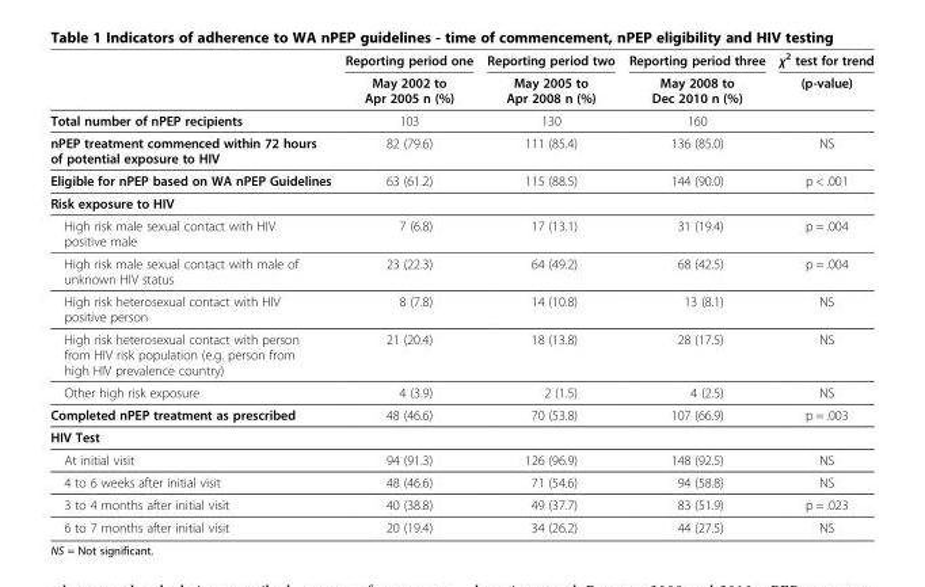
<table><thead><tr><td rowspan="2"></td><td rowspan="2">Reporting period one May 2002 to Apr 2005 n (%)</td><td rowspan="2">Reporting period two May 2005 to Apr 2008 n (%)</td><td rowspan="2">Reporting period three May 2008 to Dec 2010 n (%)</td><td rowspan="2">χ<sup>2</sup> test for trend (p-value)</td></tr><tr></tr></thead><tbody><tr><td>Total number of nPEP recipients</td><td>103</td><td>130</td><td>160</td><td></td></tr><tr><td>nPEP treatment commenced within 72 hours of potential exposure to HIV</td><td>82 (79.6)</td><td>111 (85.4)</td><td>136 (85.0)</td><td>NS</td></tr><tr><td>Eligible for nPEP based on WA nPEP Guidelines</td><td>63 (61.2)</td><td>115 (88.5)</td><td>144 (90.0)</td><td>p &lt; .001</td></tr><tr><td colspan="5">Risk exposure to HIV</td></tr><tr><td>High risk male sexual contact with HIV positive male</td><td>7 (6.8)</td><td>17 (13.1)</td><td>31 (19.4)</td><td>p = .004</td></tr><tr><td>High risk male sexual contact with male of unknown HIV status</td><td>23 (22.3)</td><td>64 (49.2)</td><td>68 (42.5)</td><td>p = .004</td></tr><tr><td>High risk heterosexual contact with HIV positive person</td><td>8 (7.8)</td><td>14 (10.8)</td><td>13 (8.1)</td><td>NS</td></tr><tr><td>High risk heterosexual contact with person from HIV risk population (e.g. person from high HIV prevalence country)</td><td>21 (20.4)</td><td>18 (13.8)</td><td>28 (17.5)</td><td>NS</td></tr><tr><td>Other high risk exposure</td><td>4 (3.9)</td><td>2 (1.5)</td><td>4 (2.5)</td><td>NS</td></tr><tr><td>Completed nPEP treatment as prescribed</td><td>48 (46.6)</td><td>70 (53.8)</td><td>107 (66.9)</td><td>p = .003</td></tr><tr><td colspan="5">HIV Test</td></tr><tr><td>At initial visit</td><td>94 (91.3)</td><td>126 (96.9)</td><td>148 (92.5)</td><td>NS</td></tr><tr><td>4 to 6 weeks after initial visit</td><td>48 (46.6)</td><td>71 (54.6)</td><td>94 (58.8)</td><td>NS</td></tr><tr><td>3 to 4 months after initial visit</td><td>40 (38.8)</td><td>49 (37.7)</td><td>83 (51.9)</td><td>p = .023</td></tr><tr><td>6 to 7 months after initial visit</td><td>20 (19.4)</td><td>34 (26.2)</td><td>44 (27.5)</td><td>NS</td></tr></tbody></table>